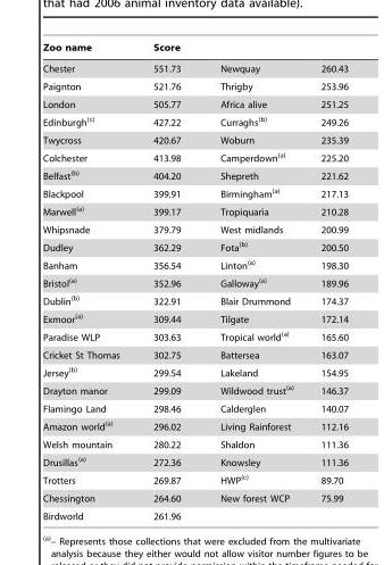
<table><thead><tr><td>Zoo name</td><td>Score</td><td></td><td></td></tr></thead><tbody><tr><td>Chester</td><td>551.73</td><td>Newquay</td><td>260.43</td></tr><tr><td>Paignton</td><td>521.76</td><td>Thrigby</td><td>253.96</td></tr><tr><td>London</td><td>505.77</td><td>Africa alive</td><td>251.25</td></tr><tr><td>Edinburgh(c)</td><td>427.22</td><td>Curraghs(b)</td><td>249.26</td></tr><tr><td>Twycross</td><td>420.67</td><td>Woburn</td><td>235.39</td></tr><tr><td>Colchester</td><td>413.98</td><td>Camperdown(a)</td><td>225.20</td></tr><tr><td>Belfast(b)</td><td>404.20</td><td>Shepreth</td><td>221.62</td></tr><tr><td>Blackpool</td><td>399.91</td><td>Birmingham(a)</td><td>217.13</td></tr><tr><td>Marwell(a)</td><td>399.17</td><td>Tropiquaria</td><td>210.28</td></tr><tr><td>Whipsnade</td><td>379.79</td><td>West midlands</td><td>200.99</td></tr><tr><td>Dudley</td><td>362.29</td><td>Fota(b)</td><td>200.50</td></tr><tr><td>Banham</td><td>356.54</td><td>Linton(a)</td><td>198.30</td></tr><tr><td>Bristol(a)</td><td>352.96</td><td>Galloway(a)</td><td>189.96</td></tr><tr><td>Dublin(b)</td><td>322.91</td><td>Blair Drummond</td><td>174.37</td></tr><tr><td>Exmoor(a)</td><td>309.44</td><td>Tilgate</td><td>172.14</td></tr><tr><td>Paradise WLP</td><td>303.63</td><td>Tropical world(a)</td><td>165.60</td></tr><tr><td>Cricket St Thomas</td><td>302.75</td><td>Battersea</td><td>163.07</td></tr><tr><td>Jersey(b)</td><td>299.54</td><td>Lakeland</td><td>154.95</td></tr><tr><td>Drayton manor</td><td>299.09</td><td>Wildwood trust(a)</td><td>146.37</td></tr><tr><td>Flamingo Land</td><td>298.46</td><td>Calderglen</td><td>140.07</td></tr><tr><td>Amazon world(a)</td><td>296.02</td><td>Living Rainforest</td><td>112.16</td></tr><tr><td>Welsh mountain</td><td>280.22</td><td>Shaldon</td><td>111.36</td></tr><tr><td>Drusillas(a)</td><td>272.36</td><td>Knowsley</td><td>111.36</td></tr><tr><td>Trotters</td><td>269.87</td><td>HWP(c)</td><td>89.70</td></tr><tr><td>Chessington</td><td>264.60</td><td>New forest WCP</td><td>75.99</td></tr><tr><td>Birdworld</td><td>261.96</td><td></td><td></td></tr></tbody></table>